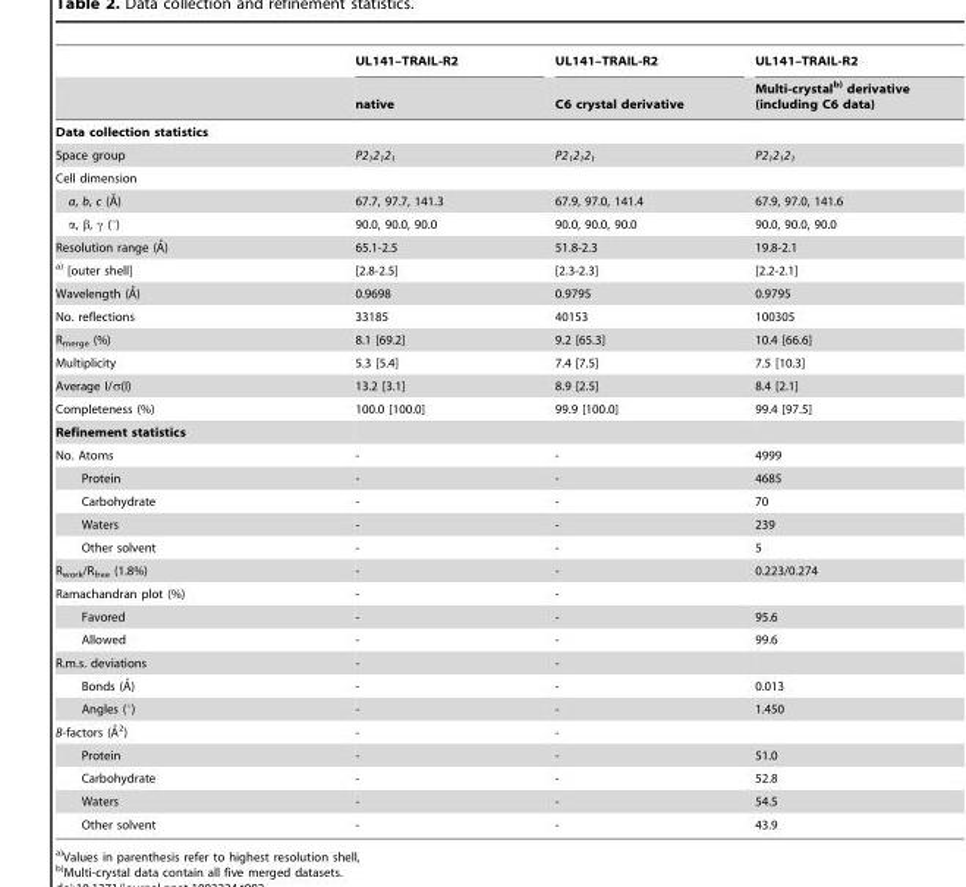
<table><thead><tr><td rowspan="2"></td><td rowspan="2">UL141–TRAIL-R2 native</td><td rowspan="2">UL141–TRAIL-R2 C6 crystal derivative</td><td rowspan="2">UL141–TRAIL-R2 Multi-crystalb) derivative (including C6 data)</td></tr><tr></tr></thead><tbody><tr><td colspan="4">Data collection statistics</td></tr><tr><td>Space group</td><td>P2<sub>1</sub>2<sub>1</sub>2<sub>1</sub></td><td>P2<sub>1</sub>2<sub>1</sub>2<sub>1</sub></td><td>P2<sub>1</sub>2<sub>1</sub>2<sub>1</sub></td></tr><tr><td colspan="4">Cell dimension</td></tr><tr><td>a, b, c (A˚)</td><td>67.7, 97.7, 141.3</td><td>67.9, 97.0, 141.4</td><td>67.9, 97.0, 141.6</td></tr><tr><td>α, β, γ (°)</td><td>90.0, 90.0, 90.0</td><td>90.0, 90.0, 90.0</td><td>90.0, 90.0, 90.0</td></tr><tr><td>Resolution range (A˚)</td><td>65.1-2.5</td><td>51.8-2.3</td><td>19.8-2.1</td></tr><tr><td>a) [outer shell]</td><td>[2.8-2.5]</td><td>[2.3-2.3]</td><td>[2.2-2.1]</td></tr><tr><td>Wavelength (A˚)</td><td>0.9698</td><td>0.9795</td><td>0.9795</td></tr><tr><td>No. reflections</td><td>33185</td><td>40153</td><td>100305</td></tr><tr><td>R<sub>merge</sub> (%)</td><td>8.1 [69.2]</td><td>9.2 [65.3]</td><td>10.4 [66.6]</td></tr><tr><td>Multiplicity</td><td>5.3 [5.4]</td><td>7.4 [7.5]</td><td>7.5 [10.3]</td></tr><tr><td>Average I/σ(I)</td><td>13.2 [3.1]</td><td>8.9 [2.5]</td><td>8.4 [2.1]</td></tr><tr><td>Completeness (%)</td><td>100.0 [100.0]</td><td>99.9 [100.0]</td><td>99.4 [97.5]</td></tr><tr><td colspan="4">Refinement statistics</td></tr><tr><td>No. Atoms</td><td>-</td><td>-</td><td>4999</td></tr><tr><td>Protein</td><td>-</td><td>-</td><td>4685</td></tr><tr><td>Carbohydrate</td><td>-</td><td>-</td><td>70</td></tr><tr><td>Waters</td><td>-</td><td>-</td><td>239</td></tr><tr><td>Other solvent</td><td>-</td><td>-</td><td>5</td></tr><tr><td>R<sub>work</sub>/R<sub>free</sub> (1.8%)</td><td>-</td><td>-</td><td>0.223/0.274</td></tr><tr><td>Ramachandran plot (%)</td><td>-</td><td>-</td><td></td></tr><tr><td>Favored</td><td>-</td><td>-</td><td>95.6</td></tr><tr><td>Allowed</td><td>-</td><td>-</td><td>99.6</td></tr><tr><td>R.m.s. deviations</td><td>-</td><td>-</td><td></td></tr><tr><td>Bonds (A˚)</td><td>-</td><td>-</td><td>0.013</td></tr><tr><td>Angles (°)</td><td>-</td><td>-</td><td>1.450</td></tr><tr><td>B-factors (A˚2)</td><td>-</td><td>-</td><td></td></tr><tr><td>Protein</td><td>-</td><td>-</td><td>51.0</td></tr><tr><td>Carbohydrate</td><td>-</td><td>-</td><td>52.8</td></tr><tr><td>Waters</td><td>-</td><td>-</td><td>54.5</td></tr><tr><td>Other solvent</td><td>-</td><td>-</td><td>43.9</td></tr></tbody></table>